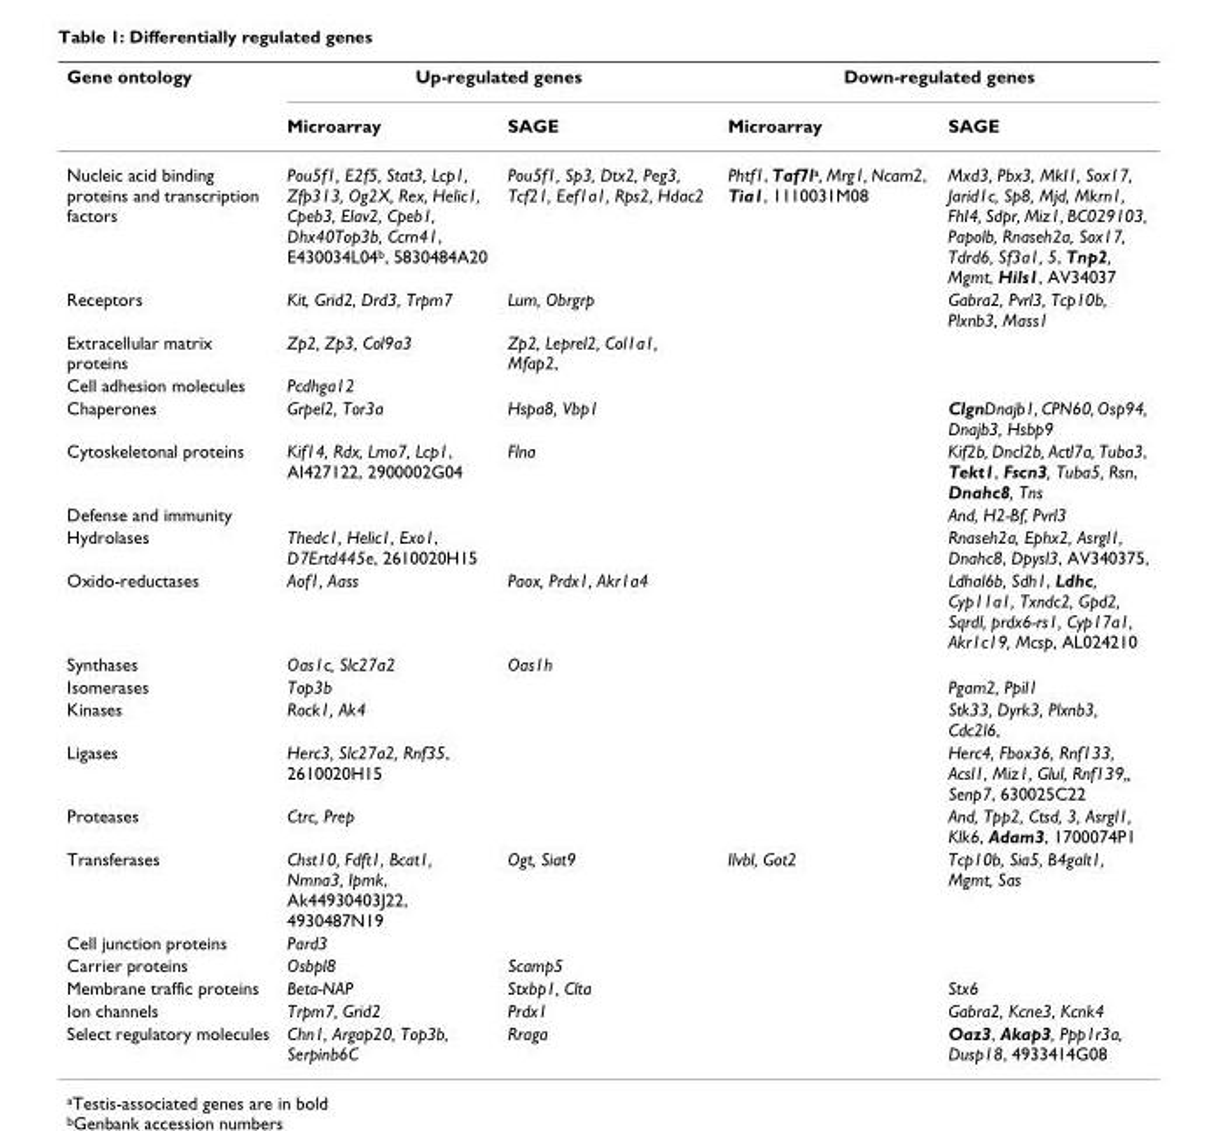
<table><thead><tr><td rowspan="2">Gene ontology</td><td colspan="2">Up-regulated genes</td><td colspan="2">Down-regulated genes</td></tr><tr><td>Microarray</td><td>SAGE</td><td>Microarray</td><td>SAGE</td></tr></thead><tbody><tr><td>Nucleic acid binding proteins and transcription factors</td><td>Pou5f1, E2f5, Stat3, Lcp1, Zfp313, Og2X, Rex, Helic1, Cpeb3, Elav2, Cpeb1, Dhx40Top3b, Ccrn41, E430034L04<sup>b</sup>, 5830484A20</td><td>Pou5f1, Sp3, Dtx2, Peg3, Tcf21, Eef1a1, Rps2, Hdac2</td><td>Phtf1, Taf7l<sup>a</sup>, Mrg1, Ncam2, Tia1, 1110031M08</td><td>Mxd3, Pbx3, MkI1, Sox17, Jarid1c, Sp8, Mjd, Mkrn1, FhI4, Sdpr, Miz1, BC029103, Papolb, Rnaseh2a, Sox17, Tdrd6, Sf3a1, 5, Tnp2, Mgmt, Hils1, AV34037</td></tr><tr><td>Receptors</td><td>Kit, Grid2, Drd3, Trpm7</td><td>Lum, Obrgrp</td><td></td><td>Gabra2, Pvrl3, Tcp10b, Plxnb3, Mass1</td></tr><tr><td>Extracellular matrix proteins</td><td>Zp2, Zp3, Col9a3</td><td>Zp2, Leprel2, Col1a1, Mfap2,</td><td></td><td></td></tr><tr><td>Cell adhesion molecules</td><td>Pcdhga12</td><td></td><td></td><td></td></tr><tr><td>Chaperones</td><td>Grpel2, Tor3a</td><td>Hspa8, Vbp1</td><td></td><td>ClgnDnajb1, CPN60, Osp94, Dnajb3, Hsbp9</td></tr><tr><td>Cytoskeletonal proteins</td><td>Kif14, Rdx, Lmo7, Lcp1, AI427122, 2900002G04</td><td>Flna</td><td></td><td>Kif2b, Dncl2b, Actl7a, Tuba3, Tekt1, Fscn3, Tuba5, Rsn, Dnahc8, Tns</td></tr><tr><td>Defense and immunity</td><td></td><td></td><td></td><td>And, H2-Bf, Pvrl3</td></tr><tr><td>Hydrolases</td><td>Thedc1, Helic1, Exo1, D7Ertd445e, 2610020H15</td><td></td><td></td><td>Rnaseh2a, Ephx2, Asrgl1, Dnahc8, Dpysl3, AV340375,</td></tr><tr><td>Oxido-reductases</td><td>Aof1, Aass</td><td>Paox, Prdx1, Akr1a4</td><td></td><td>Ldhal6b, Sdh1, Ldhc, Cyp11a1, Txndc2, Gpd2, Sqrdl, prdx6-rs1, Cyp17a1, Akr1c19, Mcsp, AL024210</td></tr><tr><td>Synthases</td><td>Oas1c, Slc27a2</td><td>Oas1h</td><td></td><td></td></tr><tr><td>Isomerases</td><td>Top3b</td><td></td><td></td><td>Pgam2, Ppil1</td></tr><tr><td>Kinases</td><td>Rock1, Ak4</td><td></td><td></td><td>Stk33, Dyrk3, Plxnb3, Cdc2l6,</td></tr><tr><td>Ligases</td><td>Herc3, Slc27a2, Rnf35, 2610020H15</td><td></td><td></td><td>Herc4, Fbox36, Rnf133, Acsl1, Miz1, Glul, Rnf139,, Senp7, 630025C22</td></tr><tr><td>Proteases</td><td>Ctrc, Prep</td><td></td><td></td><td>And, Tpp2, Ctsd, 3, Asrgl1, Klk6, Adam3, 1700074P1</td></tr><tr><td>Transferases</td><td>Chst10, Fdft1, Bcat1, Nmna3, Ipmk, Ak44930403J22, 4930487N19</td><td>Ogt, Siat9</td><td>Ilvbl, Got2</td><td>Tcp10b, Sia5, B4galt1, Mgmt, Sas</td></tr><tr><td>Cell junction proteins</td><td>Pard3</td><td></td><td></td><td></td></tr><tr><td>Carrier proteins</td><td>Osbpl8</td><td>Scamp5</td><td></td><td></td></tr><tr><td>Membrane traffic proteins</td><td>Beta-NAP</td><td>Stxbp1, Clta</td><td></td><td>Stx6</td></tr><tr><td>Ion channels</td><td>Trpm7, Grid2</td><td>Prdx1</td><td></td><td>Gabra2, Kcne3, Kcnk4</td></tr><tr><td>Select regulatory molecules</td><td>Chn1, Argap20, Top3b, Serpinb6C</td><td>Rraga</td><td></td><td>Oaz3, Akap3, Ppp1r3a, Dusp18, 4933414G08</td></tr></tbody></table>